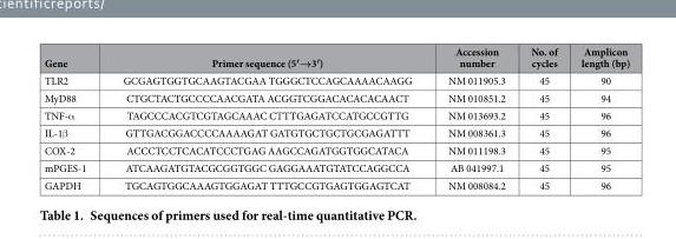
<table><thead><tr><td>Gene</td><td>Primer sequence (5′→3′)</td><td>Accession number</td><td>No. of cycles</td><td>Amplicon length (bp)</td></tr></thead><tbody><tr><td>TLR2</td><td>GCGAGTGGTGCAAGTACGAA TGGGCTCCAGCAAAACAAGG</td><td>NM 011905.3</td><td>45</td><td>90</td></tr><tr><td>MyD88</td><td>CTGCTACTGCCCCAACGATA ACGGTCGGACACACACAACT</td><td>NM 010851.2</td><td>45</td><td>94</td></tr><tr><td>TNF-α</td><td>TAGCCCACGTCGTAGCAAAC CTTTGAGATCCATGCCGTTG</td><td>NM 013693.2</td><td>45</td><td>96</td></tr><tr><td>IL-1β</td><td>GTTGACGGACCCCAAAAGAT GATGTGCTGCTGCGAGATTT</td><td>NM 008361.3</td><td>45</td><td>96</td></tr><tr><td>COX-2</td><td>ACCCTCCTCACATCCCTGAG AAGCCAGATGGTGGCATACA</td><td>NM 011198.3</td><td>45</td><td>95</td></tr><tr><td>mPGES-1</td><td>ATCAAGATGTACGCGGTGGC GAGGAAATGTATCCAGGCCA</td><td>AB 041997.1</td><td>45</td><td>95</td></tr><tr><td>GAPDH</td><td>TGCAGTGGCAAAGTGGAGAT TTTGCCGTGAGTGGAGTCAT</td><td>NM 008084.2</td><td>45</td><td>96</td></tr></tbody></table>